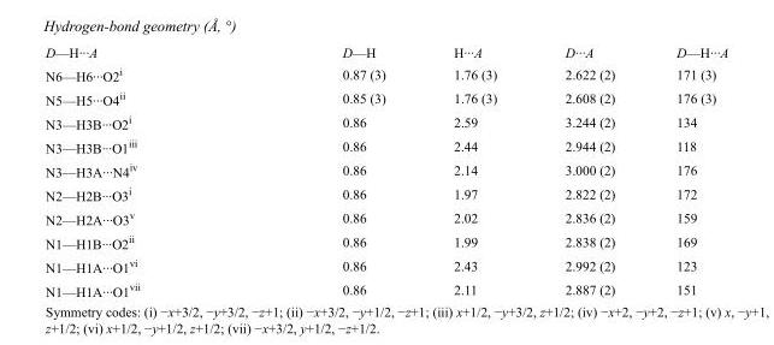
<table><tbody><tr><td>D—H···A</td><td>D—H</td><td>H···A</td><td>D···A</td><td>D—H···A</td></tr><tr><td>N6—H6···O2<sup>i</sup></td><td>0.87 (3)</td><td>1.76 (3)</td><td>2.622 (2)</td><td>171 (3)</td></tr><tr><td>N5—H5···O4<sup>ii</sup></td><td>0.85 (3)</td><td>1.76 (3)</td><td>2.608 (2)</td><td>176 (3)</td></tr><tr><td>N3—H3B···O2<sup>i</sup></td><td>0.86</td><td>2.59</td><td>3.244 (2)</td><td>134</td></tr><tr><td>N3—H3B···O1<sup>iii</sup></td><td>0.86</td><td>2.44</td><td>2.944 (2)</td><td>118</td></tr><tr><td>N3—H3A···N4<sup>iv</sup></td><td>0.86</td><td>2.14</td><td>3.000 (2)</td><td>176</td></tr><tr><td>N2—H2B···O3<sup>i</sup></td><td>0.86</td><td>1.97</td><td>2.822 (2)</td><td>172</td></tr><tr><td>N2—H2A···O3<sup>v</sup></td><td>0.86</td><td>2.02</td><td>2.836 (2)</td><td>159</td></tr><tr><td>N1—H1B···O2<sup>ii</sup></td><td>0.86</td><td>1.99</td><td>2.838 (2)</td><td>169</td></tr><tr><td>N1—H1A···O1<sup>vi</sup></td><td>0.86</td><td>2.43</td><td>2.992 (2)</td><td>123</td></tr><tr><td>N1—H1A···O1<sup>vii</sup></td><td>0.86</td><td>2.11</td><td>2.887 (2)</td><td>151</td></tr></tbody></table>